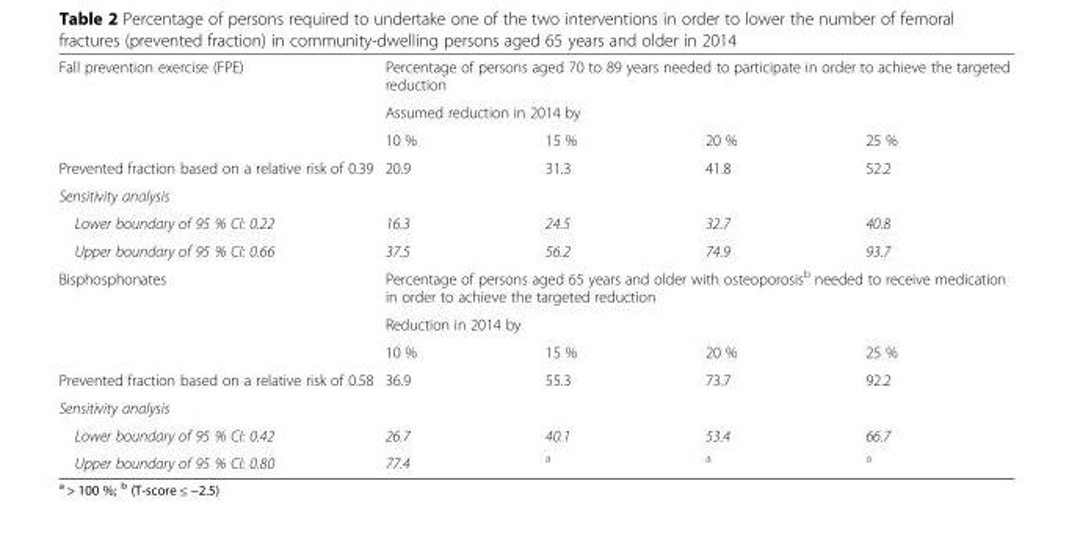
<table><tbody><tr><td rowspan="3">Fall prevention exercise (FPE)</td><td colspan="4">Percentage of persons aged 70 to 89 years needed to participate in order to achieve the targeted reduction</td></tr><tr><td colspan="4">Assumed reduction in 2014 by</td></tr><tr><td>10 %</td><td>15 %</td><td>20 %</td><td>25 %</td></tr><tr><td>Prevented fraction based on a relative risk of 0.39</td><td>20.9</td><td>31.3</td><td>41.8</td><td>52.2</td></tr><tr><td colspan="5">Sensitivity analysis</td></tr><tr><td>Lower boundary of 95 % CI: 0.22</td><td>16.3</td><td>24.5</td><td>32.7</td><td>40.8</td></tr><tr><td>Upper boundary of 95 % CI: 0.66</td><td>37.5</td><td>56.2</td><td>74.9</td><td>93.7</td></tr><tr><td rowspan="3">Bisphosphonates</td><td colspan="4">Percentage of persons aged 65 years and older with osteoporosis<sup>b</sup> needed to receive medication in order to achieve the targeted reduction</td></tr><tr><td colspan="4">Reduction in 2014 by</td></tr><tr><td>10 %</td><td>15 %</td><td>20 %</td><td>25 %</td></tr><tr><td>Prevented fraction based on a relative risk of 0.58</td><td>36.9</td><td>55.3</td><td>73.7</td><td>92.2</td></tr><tr><td colspan="5">Sensitivity analysis</td></tr><tr><td>Lower boundary of 95 % CI: 0.42</td><td>26.7</td><td>40.1</td><td>53.4</td><td>66.7</td></tr><tr><td>Upper boundary of 95 % CI: 0.80</td><td>77.4</td><td><sup>a</sup></td><td><sup>a</sup></td><td><sup>a</sup></td></tr></tbody></table>